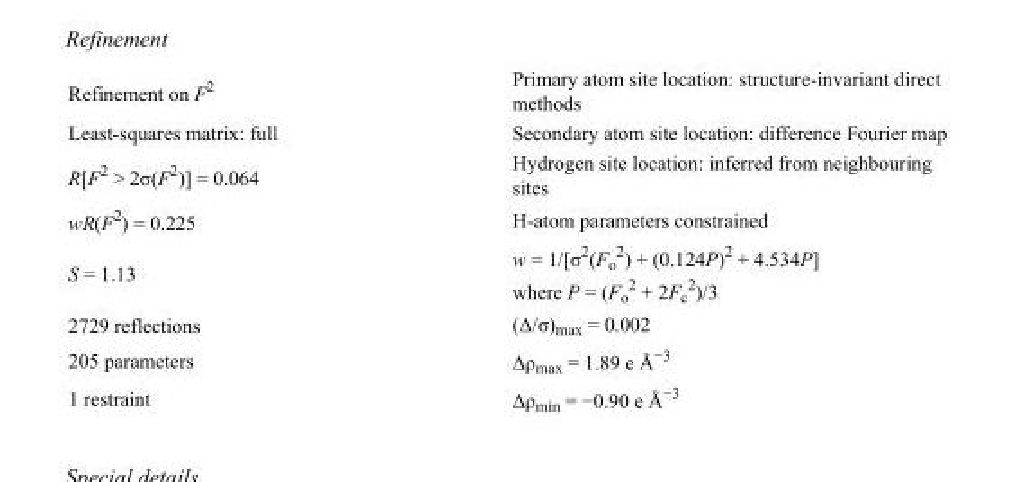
<table><tbody><tr><td>Refinement on F<sup>2</sup></td><td>Primary atom site location: structure-invariant direct methods</td></tr><tr><td>Least-squares matrix: full</td><td>Secondary atom site location: difference Fourier map</td></tr><tr><td>R[F<sup>2</sup> &gt; 2σ(F<sup>2</sup>)] = 0.064</td><td>Hydrogen site location: inferred from neighbouring sites</td></tr><tr><td>wR(F<sup>2</sup>) = 0.225</td><td>H-atom parameters constrained</td></tr><tr><td>S = 1.13</td><td>w = 1/[σ<sup>2</sup>(F<sub>o</sub> <sup>2</sup>) + (0.124P)<sup>2</sup> + 4.534P] where P = (F<sub>o</sub> <sup>2</sup> + 2F<sub>c</sub> <sup>2</sup>)/3</td></tr><tr><td>2729 reflections</td><td>(Δ/σ)<sub>max</sub> = 0.002</td></tr><tr><td>205 parameters</td><td>Δρ<sub>max</sub> = 1.89 e Å<sup>−3</sup></td></tr><tr><td>1 restraint</td><td>Δρ<sub>min</sub> = −0.90 e Å<sup>−3</sup></td></tr></tbody></table>